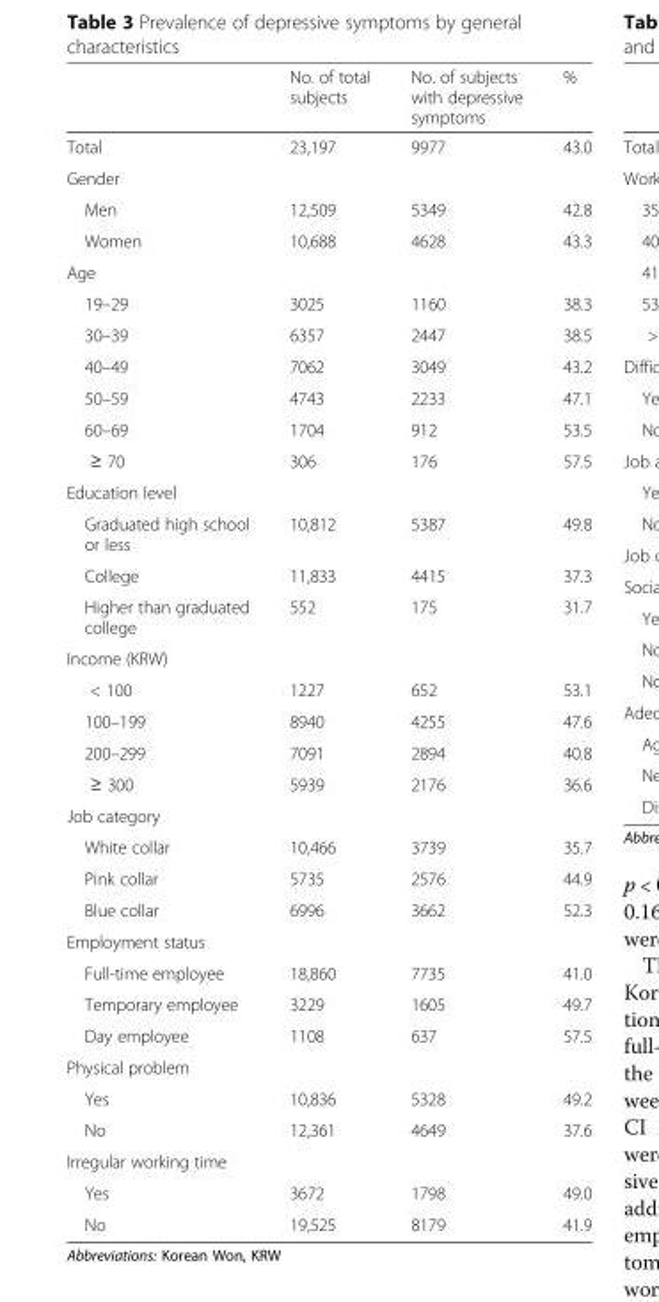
<table><thead><tr><td></td><td>No. of total subjects</td><td>No. of subjects with depressive symptoms</td><td>%</td></tr></thead><tbody><tr><td>Total</td><td>23,197</td><td>9977</td><td>43.0</td></tr><tr><td colspan="4">Gender</td></tr><tr><td>Men</td><td>12,509</td><td>5349</td><td>42.8</td></tr><tr><td>Women</td><td>10,688</td><td>4628</td><td>43.3</td></tr><tr><td colspan="4">Age</td></tr><tr><td>19–29</td><td>3025</td><td>1160</td><td>38.3</td></tr><tr><td>30–39</td><td>6357</td><td>2447</td><td>38.5</td></tr><tr><td>40–49</td><td>7062</td><td>3049</td><td>43.2</td></tr><tr><td>50–59</td><td>4743</td><td>2233</td><td>47.1</td></tr><tr><td>60–69</td><td>1704</td><td>912</td><td>53.5</td></tr><tr><td>≥ 70</td><td>306</td><td>176</td><td>57.5</td></tr><tr><td colspan="4">Education level</td></tr><tr><td>Graduated high school or less</td><td>10,812</td><td>5387</td><td>49.8</td></tr><tr><td>College</td><td>11,833</td><td>4415</td><td>37.3</td></tr><tr><td>Higher than graduated college</td><td>552</td><td>175</td><td>31.7</td></tr><tr><td colspan="4">Income (KRW)</td></tr><tr><td>&lt; 100</td><td>1227</td><td>652</td><td>53.1</td></tr><tr><td>100–199</td><td>8940</td><td>4255</td><td>47.6</td></tr><tr><td>200–299</td><td>7091</td><td>2894</td><td>40.8</td></tr><tr><td>≥ 300</td><td>5939</td><td>2176</td><td>36.6</td></tr><tr><td colspan="4">Job category</td></tr><tr><td>White collar</td><td>10,466</td><td>3739</td><td>35.7</td></tr><tr><td>Pink collar</td><td>5735</td><td>2576</td><td>44.9</td></tr><tr><td>Blue collar</td><td>6996</td><td>3662</td><td>52.3</td></tr><tr><td colspan="4">Employment status</td></tr><tr><td>Full-time employee</td><td>18,860</td><td>7735</td><td>41.0</td></tr><tr><td>Temporary employee</td><td>3229</td><td>1605</td><td>49.7</td></tr><tr><td>Day employee</td><td>1108</td><td>637</td><td>57.5</td></tr><tr><td colspan="4">Physical problem</td></tr><tr><td>Yes</td><td>10,836</td><td>5328</td><td>49.2</td></tr><tr><td>No</td><td>12,361</td><td>4649</td><td>37.6</td></tr><tr><td colspan="4">Irregular working time</td></tr><tr><td>Yes</td><td>3672</td><td>1798</td><td>49.0</td></tr><tr><td>No</td><td>19,525</td><td>8179</td><td>41.9</td></tr></tbody></table>